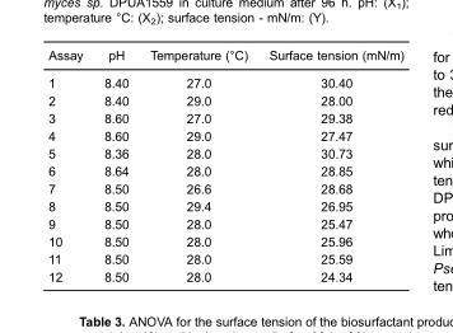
<table><thead><tr><td>Assay</td><td>pH</td><td>Temperature (°C)</td><td>Surface tension (mN/m)</td></tr></thead><tbody><tr><td>1</td><td>8.40</td><td>27.0</td><td>30.40</td></tr><tr><td>2</td><td>8.40</td><td>29.0</td><td>28.00</td></tr><tr><td>3</td><td>8.60</td><td>27.0</td><td>29.38</td></tr><tr><td>4</td><td>8.60</td><td>29.0</td><td>27.47</td></tr><tr><td>5</td><td>8.36</td><td>28.0</td><td>30.73</td></tr><tr><td>6</td><td>8.64</td><td>28.0</td><td>28.85</td></tr><tr><td>7</td><td>8.50</td><td>26.6</td><td>28.68</td></tr><tr><td>8</td><td>8.50</td><td>29.4</td><td>26.95</td></tr><tr><td>9</td><td>8.50</td><td>28.0</td><td>25.47</td></tr><tr><td>10</td><td>8.50</td><td>28.0</td><td>25.96</td></tr><tr><td>11</td><td>8.50</td><td>28.0</td><td>25.59</td></tr><tr><td>12</td><td>8.50</td><td>28.0</td><td>24.34</td></tr></tbody></table>